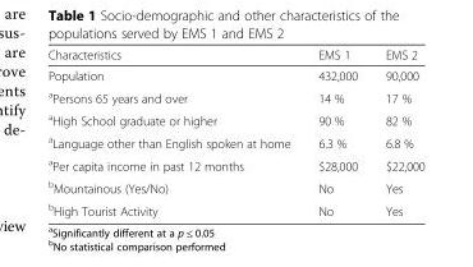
<table><thead><tr><td>Characteristics</td><td>EMS 1</td><td>EMS 2</td></tr></thead><tbody><tr><td>Population</td><td>432,000</td><td>90,000</td></tr><tr><td><sup>a</sup>Persons 65 years and over</td><td>14 %</td><td>17 %</td></tr><tr><td><sup>a</sup>High School graduate or higher</td><td>90 %</td><td>82 %</td></tr><tr><td><sup>a</sup>Language other than English spoken at home</td><td>6.3 %</td><td>6.8 %</td></tr><tr><td><sup>a</sup>Per capita income in past 12 months</td><td>$28,000</td><td>$22,000</td></tr><tr><td><sup>b</sup>Mountainous (Yes/No)</td><td>No</td><td>Yes</td></tr><tr><td><sup>b</sup>High Tourist Activity</td><td>No</td><td>Yes</td></tr></tbody></table>